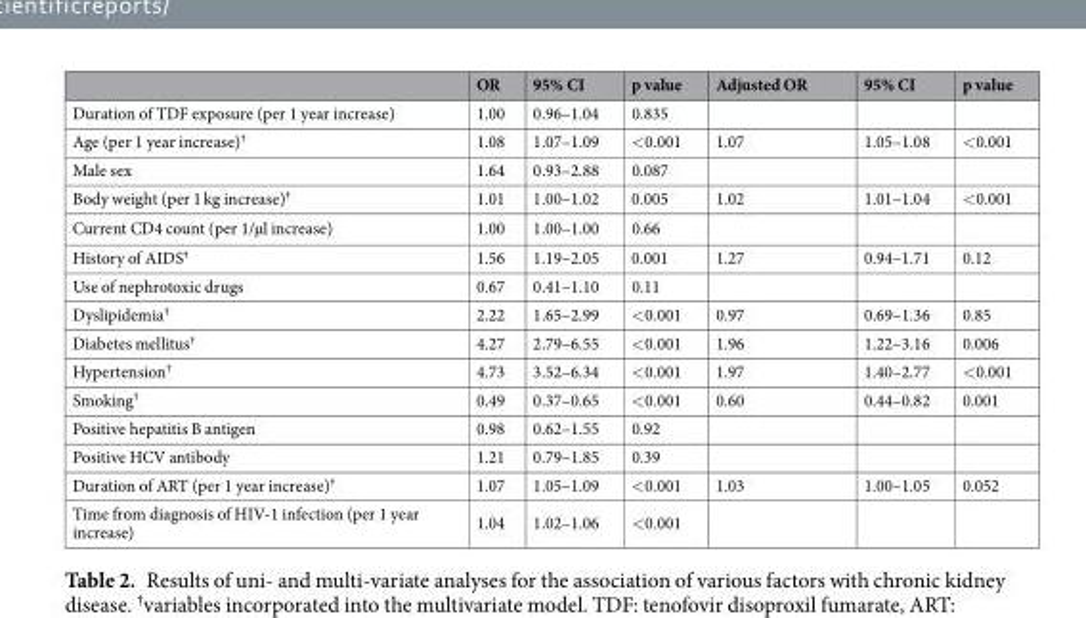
<table><thead><tr><td></td><td>OR</td><td>95% CI</td><td>p value</td><td>Adjusted OR</td><td>95% CI</td><td>p value</td></tr></thead><tbody><tr><td>Duration of TDF exposure (per 1 year increase)</td><td>1.00</td><td>0.96–1.04</td><td>0.835</td><td></td><td></td><td></td></tr><tr><td>Age (per 1 year increase)<sup>†</sup></td><td>1.08</td><td>1.07–1.09</td><td>&lt;0.001</td><td>1.07</td><td>1.05–1.08</td><td>&lt;0.001</td></tr><tr><td>Male sex</td><td>1.64</td><td>0.93–2.88</td><td>0.087</td><td></td><td></td><td></td></tr><tr><td>Body weight (per 1 kg increase)<sup>†</sup></td><td>1.01</td><td>1.00–1.02</td><td>0.005</td><td>1.02</td><td>1.01–1.04</td><td>&lt;0.001</td></tr><tr><td>Current CD4 count (per 1/µl increase)</td><td>1.00</td><td>1.00–1.00</td><td>0.66</td><td></td><td></td><td></td></tr><tr><td>History of AIDS<sup>†</sup></td><td>1.56</td><td>1.19–2.05</td><td>0.001</td><td>1.27</td><td>0.94–1.71</td><td>0.12</td></tr><tr><td>Use of nephrotoxic drugs</td><td>0.67</td><td>0.41–1.10</td><td>0.11</td><td></td><td></td><td></td></tr><tr><td>Dyslipidemia<sup>†</sup></td><td>2.22</td><td>1.65–2.99</td><td>&lt;0.001</td><td>0.97</td><td>0.69–1.36</td><td>0.85</td></tr><tr><td>Diabetes mellitus<sup>†</sup></td><td>4.27</td><td>2.79–6.55</td><td>&lt;0.001</td><td>1.96</td><td>1.22–3.16</td><td>0.006</td></tr><tr><td>Hypertension<sup>†</sup></td><td>4.73</td><td>3.52–6.34</td><td>&lt;0.001</td><td>1.97</td><td>1.40–2.77</td><td>&lt;0.001</td></tr><tr><td>Smoking<sup>†</sup></td><td>0.49</td><td>0.37–0.65</td><td>&lt;0.001</td><td>0.60</td><td>0.44–0.82</td><td>0.001</td></tr><tr><td>Positive hepatitis B antigen</td><td>0.98</td><td>0.62–1.55</td><td>0.92</td><td></td><td></td><td></td></tr><tr><td>Positive HCV antibody</td><td>1.21</td><td>0.79–1.85</td><td>0.39</td><td></td><td></td><td></td></tr><tr><td>Duration of ART (per 1 year increase)<sup>†</sup></td><td>1.07</td><td>1.05–1.09</td><td>&lt;0.001</td><td>1.03</td><td>1.00–1.05</td><td>0.052</td></tr><tr><td>Time from diagnosis of HIV-1 infection (per 1 year increase)</td><td>1.04</td><td>1.02–1.06</td><td>&lt;0.001</td><td></td><td></td><td></td></tr></tbody></table>